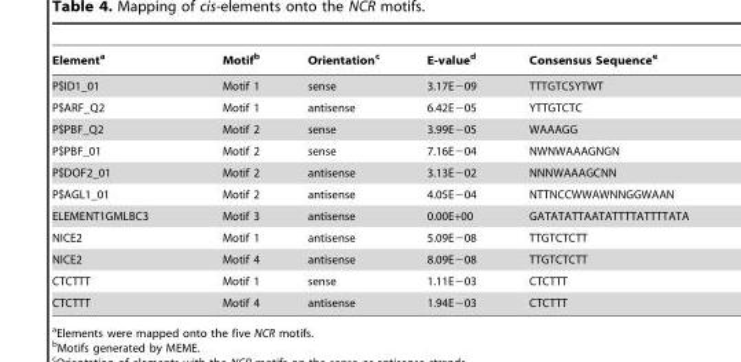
<table><thead><tr><td>Element<sup>a</sup></td><td>Motif<sup>b</sup></td><td>Orientation<sup>c</sup></td><td>E-value<sup>d</sup></td><td>Consensus Sequence<sup>e</sup></td></tr></thead><tbody><tr><td>P$ID1_01</td><td>Motif 1</td><td>sense</td><td>3.17E−09</td><td>TTTGTCSYTWT</td></tr><tr><td>P$ARF_Q2</td><td>Motif 1</td><td>antisense</td><td>6.42E−05</td><td>YTTGTCTC</td></tr><tr><td>P$PBF_Q2</td><td>Motif 2</td><td>sense</td><td>3.99E−05</td><td>WAAAGG</td></tr><tr><td>P$PBF_01</td><td>Motif 2</td><td>sense</td><td>7.16E−04</td><td>NWNWAAAGNGN</td></tr><tr><td>P$DOF2_01</td><td>Motif 2</td><td>antisense</td><td>3.13E−02</td><td>NNNWAAAGCNN</td></tr><tr><td>P$AGL1_01</td><td>Motif 2</td><td>antisense</td><td>4.05E−04</td><td>NTTNCCWWAWNNGGWAAN</td></tr><tr><td>ELEMENT1GMLBC3</td><td>Motif 3</td><td>antisense</td><td>0.00E+00</td><td>GATATATTAATATTTTATTTTATA</td></tr><tr><td>NICE2</td><td>Motif 1</td><td>antisense</td><td>5.09E−08</td><td>TTGTCTCTT</td></tr><tr><td>NICE2</td><td>Motif 4</td><td>antisense</td><td>8.09E−08</td><td>TTGTCTCTT</td></tr><tr><td>CTCTTT</td><td>Motif 1</td><td>sense</td><td>1.11E−03</td><td>CTCTTT</td></tr><tr><td>CTCTTT</td><td>Motif 4</td><td>antisense</td><td>1.94E−03</td><td>CTCTTT</td></tr></tbody></table>